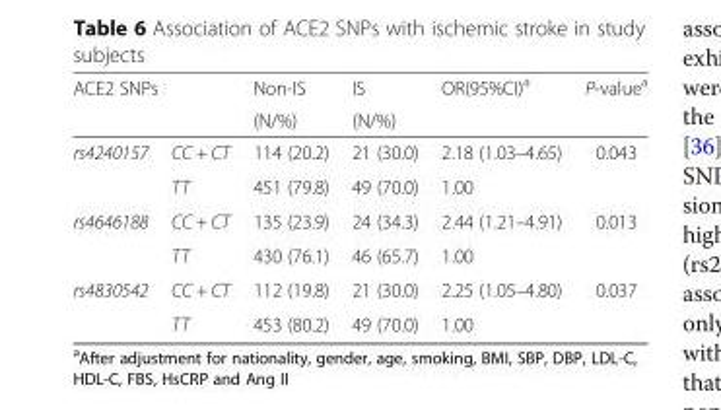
<table><thead><tr><td rowspan="2" colspan="2">ACE2 SNPs</td><td rowspan="3">Non-IS (N/%) 114 (20.2)</td><td rowspan="3">IS (N/%) 21 (30.0)</td><td rowspan="3">OR(95%CI)<sup>a</sup> 2.18 (1.03–4.65)</td><td rowspan="3">P-value<sup>a</sup> 0.043</td></tr><tr></tr><tr><td>rs4240157</td><td>CC + CT</td></tr></thead><tbody><tr><td></td><td>TT</td><td>451 (79.8)</td><td>49 (70.0)</td><td>1.00</td><td></td></tr><tr><td rowspan="2">rs4646188</td><td>CC + CT</td><td>135 (23.9)</td><td>24 (34.3)</td><td>2.44 (1.21–4.91)</td><td>0.013</td></tr><tr><td>TT</td><td>430 (76.1)</td><td>46 (65.7)</td><td>1.00</td><td></td></tr><tr><td rowspan="2">rs4830542</td><td>CC + CT</td><td>112 (19.8)</td><td>21 (30.0)</td><td>2.25 (1.05–4.80)</td><td>0.037</td></tr><tr><td>TT</td><td>453 (80.2)</td><td>49 (70.0)</td><td>1.00</td><td></td></tr></tbody></table>